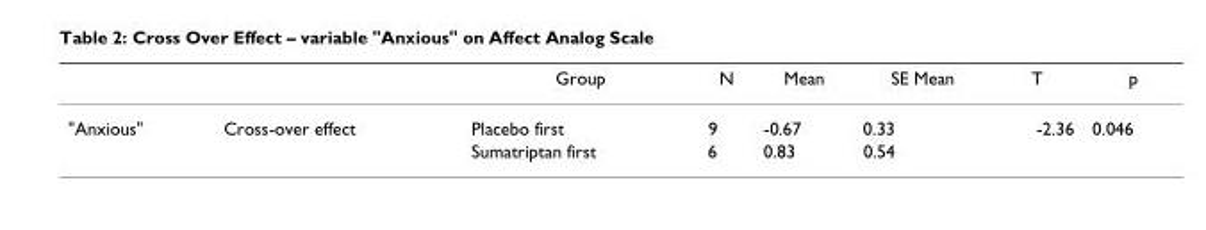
<table><thead><tr><td></td><td></td><td>Group</td><td>N</td><td>Mean</td><td>SE Mean</td><td>T</td><td>p</td></tr></thead><tbody><tr><td rowspan="2">&quot;Anxious&quot;</td><td>Cross-over effect</td><td>Placebo first</td><td>9</td><td>-0.67</td><td>0.33</td><td>-2.36</td><td>0.046</td></tr><tr><td></td><td>Sumatriptan first</td><td>6</td><td>0.83</td><td>0.54</td><td></td><td></td></tr></tbody></table>